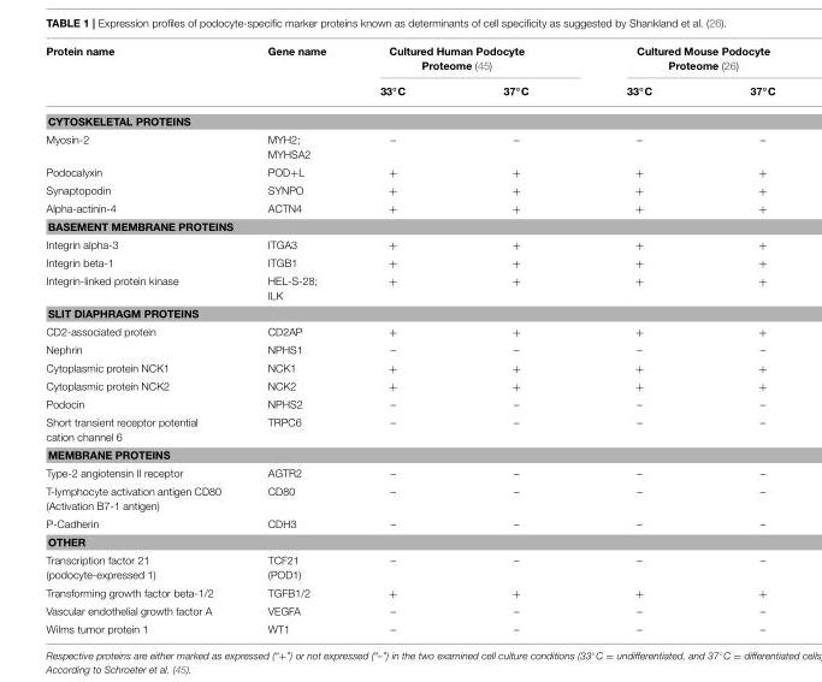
<table><thead><tr><td rowspan="2">Protein name</td><td rowspan="2">Gene name</td><td colspan="2">Cultured Human Podocyte Proteome (45)</td><td colspan="2">Cultured Mouse Podocyte Proteome (26)</td></tr><tr><td>33◦C</td><td>37◦C</td><td>33◦C</td><td>37◦C</td></tr></thead><tbody><tr><td colspan="6">CYTOSKELETAL PROTEINS</td></tr><tr><td>Myosin-2</td><td>MYH2; MYHSA2</td><td>–</td><td>–</td><td>–</td><td>–</td></tr><tr><td>Podocalyxin</td><td>POD+L</td><td>+</td><td>+</td><td>+</td><td>+</td></tr><tr><td>Synaptopodin</td><td>SYNPO</td><td>+</td><td>+</td><td>+</td><td>+</td></tr><tr><td>Alpha-actinin-4</td><td>ACTN4</td><td>+</td><td>+</td><td>+</td><td>+</td></tr><tr><td colspan="6">BASEMENT MEMBRANE PROTEINS</td></tr><tr><td>Integrin alpha-3</td><td>ITGA3</td><td>+</td><td>+</td><td>+</td><td>+</td></tr><tr><td>Integrin beta-1</td><td>ITGB1</td><td>+</td><td>+</td><td>+</td><td>+</td></tr><tr><td>Integrin-linked protein kinase</td><td>HEL-S-28; ILK</td><td>+</td><td>+</td><td>+</td><td>+</td></tr><tr><td colspan="6">SLIT DIAPHRAGM PROTEINS</td></tr><tr><td>CD2-associated protein</td><td>CD2AP</td><td>+</td><td>+</td><td>+</td><td>+</td></tr><tr><td>Nephrin</td><td>NPHS1</td><td>–</td><td>–</td><td>–</td><td>–</td></tr><tr><td>Cytoplasmic protein NCK1</td><td>NCK1</td><td>+</td><td>+</td><td>+</td><td>+</td></tr><tr><td>Cytoplasmic protein NCK2</td><td>NCK2</td><td>+</td><td>+</td><td>+</td><td>+</td></tr><tr><td>Podocin</td><td>NPHS2</td><td>–</td><td>–</td><td>–</td><td>–</td></tr><tr><td>Short transient receptor potential cation channel 6</td><td>TRPC6</td><td>–</td><td>–</td><td>–</td><td>–</td></tr><tr><td colspan="6">MEMBRANE PROTEINS</td></tr><tr><td>Type-2 angiotensin II receptor</td><td>AGTR2</td><td>–</td><td>–</td><td>–</td><td>–</td></tr><tr><td>T-lymphocyte activation antigen CD80 (Activation B7-1 antigen)</td><td>CD80</td><td>–</td><td>–</td><td>–</td><td>–</td></tr><tr><td>P-Cadherin</td><td>CDH3</td><td>–</td><td>–</td><td>–</td><td>–</td></tr><tr><td colspan="6">OTHER</td></tr><tr><td>Transcription factor 21 (podocyte-expressed 1)</td><td>TCF21 (POD1)</td><td>–</td><td>–</td><td>–</td><td>–</td></tr><tr><td>Transforming growth factor beta-1/2</td><td>TGFB1/2</td><td>+</td><td>+</td><td>+</td><td>+</td></tr><tr><td>Vascular endothelial growth factor A</td><td>VEGFA</td><td>–</td><td>–</td><td>–</td><td>–</td></tr><tr><td>Wilms tumor protein 1</td><td>WT1</td><td>–</td><td>–</td><td>–</td><td>–</td></tr></tbody></table>